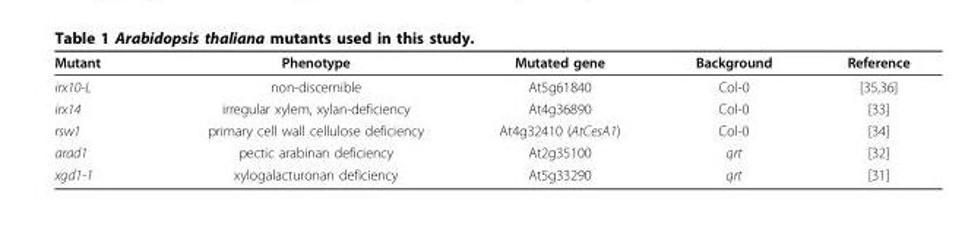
<table><thead><tr><td>Mutant</td><td>Phenotype</td><td>Mutated gene</td><td>Background</td><td>Reference</td></tr></thead><tbody><tr><td>irx10-L</td><td>non-discernible</td><td>At5g61840</td><td>Col-0</td><td>[35,36]</td></tr><tr><td>irx14</td><td>irregular xylem, xylan-deficiency</td><td>At4g36890</td><td>Col-0</td><td>[33]</td></tr><tr><td>rsw1</td><td>primary cell wall cellulose deficiency</td><td>At4g32410 (AtCesA1)</td><td>Col-0</td><td>[34]</td></tr><tr><td>arad1</td><td>pectic arabinan deficiency</td><td>At2g35100</td><td>qrt</td><td>[32]</td></tr><tr><td>xgd1-1</td><td>xylogalacturonan deficiency</td><td>At5g33290</td><td>qrt</td><td>[31]</td></tr></tbody></table>